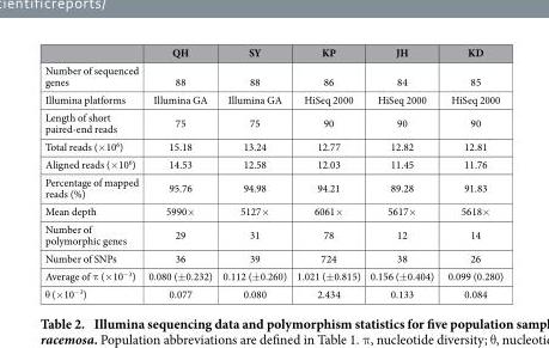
<table><thead><tr><td></td><td>QH</td><td>SY</td><td>KP</td><td>JH</td><td>KD</td></tr></thead><tbody><tr><td>Number of sequenced genes</td><td>88</td><td>88</td><td>86</td><td>84</td><td>85</td></tr><tr><td>Illumina platforms</td><td>Illumina GA</td><td>Illumina GA</td><td>HiSeq 2000</td><td>HiSeq 2000</td><td>HiSeq 2000</td></tr><tr><td>Length of short paired-end reads</td><td>75</td><td>75</td><td>90</td><td>90</td><td>90</td></tr><tr><td>Total reads (× 10<sup>6</sup>)</td><td>15.18</td><td>13.24</td><td>12.77</td><td>12.82</td><td>12.81</td></tr><tr><td>Aligned reads (× 10<sup>6</sup>)</td><td>14.53</td><td>12.58</td><td>12.03</td><td>11.45</td><td>11.76</td></tr><tr><td>Percentage of mapped reads (%)</td><td>95.76</td><td>94.98</td><td>94.21</td><td>89.28</td><td>91.83</td></tr><tr><td>Mean depth</td><td>5990×</td><td>5127×</td><td>6061×</td><td>5617×</td><td>5618×</td></tr><tr><td>Number of polymorphic genes</td><td>29</td><td>31</td><td>78</td><td>12</td><td>14</td></tr><tr><td>Number of SNPs</td><td>36</td><td>39</td><td>724</td><td>38</td><td>26</td></tr><tr><td>Average of π (× 10<sup>−3</sup>)</td><td>0.080 (± 0.232)</td><td>0.112 (± 0.260)</td><td>1.021 (± 0.815)</td><td>0.156 (± 0.404)</td><td>0.099 (0.280)</td></tr><tr><td>θ (× 10<sup>−3</sup>)</td><td>0.077</td><td>0.080</td><td>2.434</td><td>0.133</td><td>0.084</td></tr></tbody></table>